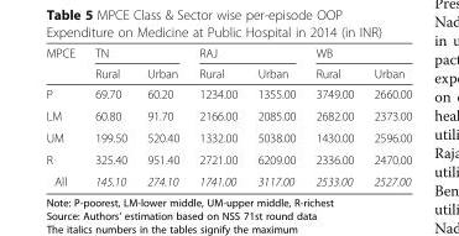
<table><thead><tr><td rowspan="2">MPCE</td><td colspan="2">TN</td><td colspan="2">RAJ</td><td colspan="2">WB</td></tr><tr><td>Rural</td><td>Urban</td><td>Rural</td><td>Urban</td><td>Rural</td><td>Urban</td></tr></thead><tbody><tr><td>P</td><td>69.70</td><td>60.20</td><td>1234.00</td><td>1355.00</td><td>3749.00</td><td>2660.00</td></tr><tr><td>LM</td><td>60.80</td><td>91.70</td><td>2166.00</td><td>2085.00</td><td>2682.00</td><td>2373.00</td></tr><tr><td>UM</td><td>199.50</td><td>520.40</td><td>1332.00</td><td>5038.00</td><td>1430.00</td><td>2596.00</td></tr><tr><td>R</td><td>325.40</td><td>951.40</td><td>2721.00</td><td>6209.00</td><td>2336.00</td><td>2470.00</td></tr><tr><td>All</td><td>145.10</td><td>274.10</td><td>1741.00</td><td>3117.00</td><td>2533.00</td><td>2527.00</td></tr></tbody></table>